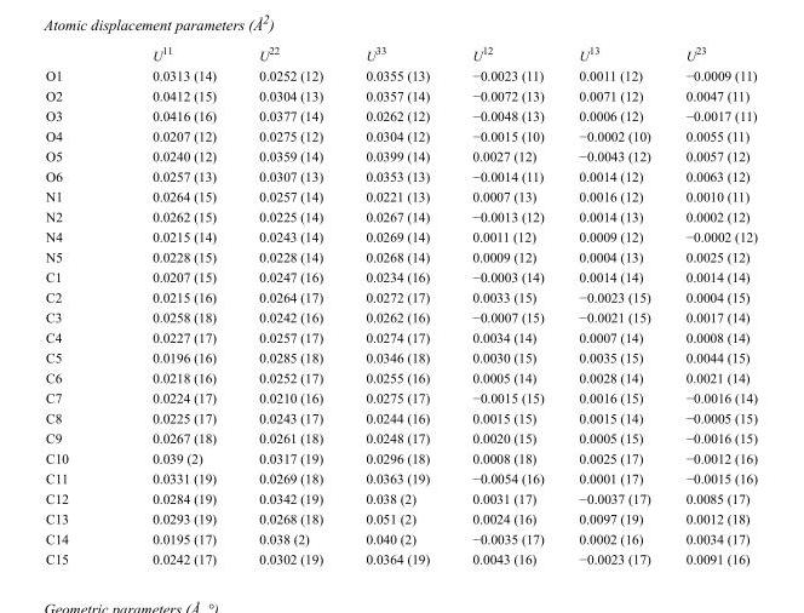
<table><thead><tr><td></td><td>U<sup>11</sup></td><td>U<sup>22</sup></td><td>U<sup>33</sup></td><td>U<sup>12</sup></td><td>U<sup>13</sup></td><td>U<sup>23</sup></td></tr></thead><tbody><tr><td>O1</td><td>0.0313 (14)</td><td>0.0252 (12)</td><td>0.0355 (13)</td><td>−0.0023 (11)</td><td>0.0011 (12)</td><td>−0.0009 (11)</td></tr><tr><td>O2</td><td>0.0412 (15)</td><td>0.0304 (13)</td><td>0.0357 (14)</td><td>−0.0072 (13)</td><td>0.0071 (12)</td><td>0.0047 (11)</td></tr><tr><td>O3</td><td>0.0416 (16)</td><td>0.0377 (14)</td><td>0.0262 (12)</td><td>−0.0048 (13)</td><td>0.0006 (12)</td><td>−0.0017 (11)</td></tr><tr><td>O4</td><td>0.0207 (12)</td><td>0.0275 (12)</td><td>0.0304 (12)</td><td>−0.0015 (10)</td><td>−0.0002 (10)</td><td>0.0055 (11)</td></tr><tr><td>O5</td><td>0.0240 (12)</td><td>0.0359 (14)</td><td>0.0399 (14)</td><td>0.0027 (12)</td><td>−0.0043 (12)</td><td>0.0057 (12)</td></tr><tr><td>O6</td><td>0.0257 (13)</td><td>0.0307 (13)</td><td>0.0353 (13)</td><td>−0.0014 (11)</td><td>0.0014 (12)</td><td>0.0063 (12)</td></tr><tr><td>N1</td><td>0.0264 (15)</td><td>0.0257 (14)</td><td>0.0221 (13)</td><td>0.0007 (13)</td><td>0.0016 (12)</td><td>0.0010 (11)</td></tr><tr><td>N2</td><td>0.0262 (15)</td><td>0.0225 (14)</td><td>0.0267 (14)</td><td>−0.0013 (12)</td><td>0.0014 (13)</td><td>0.0002 (12)</td></tr><tr><td>N4</td><td>0.0215 (14)</td><td>0.0243 (14)</td><td>0.0269 (14)</td><td>0.0011 (12)</td><td>0.0009 (12)</td><td>−0.0002 (12)</td></tr><tr><td>N5</td><td>0.0228 (15)</td><td>0.0228 (14)</td><td>0.0268 (14)</td><td>0.0009 (12)</td><td>0.0004 (13)</td><td>0.0025 (12)</td></tr><tr><td>C1</td><td>0.0207 (15)</td><td>0.0247 (16)</td><td>0.0234 (16)</td><td>−0.0003 (14)</td><td>0.0014 (14)</td><td>0.0014 (14)</td></tr><tr><td>C2</td><td>0.0215 (16)</td><td>0.0264 (17)</td><td>0.0272 (17)</td><td>0.0033 (15)</td><td>−0.0023 (15)</td><td>0.0004 (15)</td></tr><tr><td>C3</td><td>0.0258 (18)</td><td>0.0242 (16)</td><td>0.0262 (16)</td><td>−0.0007 (15)</td><td>−0.0021 (15)</td><td>0.0017 (14)</td></tr><tr><td>C4</td><td>0.0227 (17)</td><td>0.0257 (17)</td><td>0.0274 (17)</td><td>0.0034 (14)</td><td>0.0007 (14)</td><td>0.0008 (14)</td></tr><tr><td>C5</td><td>0.0196 (16)</td><td>0.0285 (18)</td><td>0.0346 (18)</td><td>0.0030 (15)</td><td>0.0035 (15)</td><td>0.0044 (15)</td></tr><tr><td>C6</td><td>0.0218 (16)</td><td>0.0252 (17)</td><td>0.0255 (16)</td><td>0.0005 (14)</td><td>0.0028 (14)</td><td>0.0021 (14)</td></tr><tr><td>C7</td><td>0.0224 (17)</td><td>0.0210 (16)</td><td>0.0275 (17)</td><td>−0.0015 (15)</td><td>0.0016 (15)</td><td>−0.0016 (14)</td></tr><tr><td>C8</td><td>0.0225 (17)</td><td>0.0243 (17)</td><td>0.0244 (16)</td><td>0.0015 (15)</td><td>0.0015 (14)</td><td>−0.0005 (15)</td></tr><tr><td>C9</td><td>0.0267 (18)</td><td>0.0261 (18)</td><td>0.0248 (17)</td><td>0.0020 (15)</td><td>0.0005 (15)</td><td>−0.0016 (15)</td></tr><tr><td>C10</td><td>0.039 (2)</td><td>0.0317 (19)</td><td>0.0296 (18)</td><td>0.0008 (18)</td><td>0.0025 (17)</td><td>−0.0012 (16)</td></tr><tr><td>C11</td><td>0.0331 (19)</td><td>0.0269 (18)</td><td>0.0363 (19)</td><td>−0.0054 (16)</td><td>0.0001 (17)</td><td>−0.0015 (16)</td></tr><tr><td>C12</td><td>0.0284 (19)</td><td>0.0342 (19)</td><td>0.038 (2)</td><td>0.0031 (17)</td><td>−0.0037 (17)</td><td>0.0085 (17)</td></tr><tr><td>C13</td><td>0.0293 (19)</td><td>0.0268 (18)</td><td>0.051 (2)</td><td>0.0024 (16)</td><td>0.0097 (19)</td><td>0.0012 (18)</td></tr><tr><td>C14</td><td>0.0195 (17)</td><td>0.038 (2)</td><td>0.040 (2)</td><td>−0.0035 (17)</td><td>0.0002 (16)</td><td>0.0034 (17)</td></tr><tr><td>C15</td><td>0.0242 (17)</td><td>0.0302 (19)</td><td>0.0364 (19)</td><td>0.0043 (16)</td><td>−0.0023 (17)</td><td>0.0091 (16)</td></tr></tbody></table>